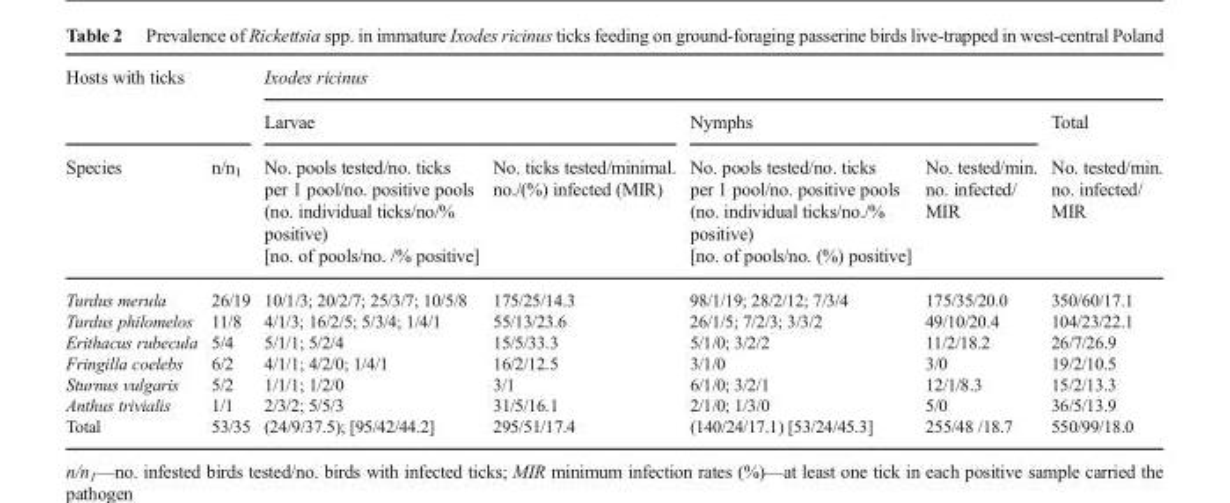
<table><thead><tr><td rowspan="2" colspan="2">Hosts with ticks</td><td colspan="5">Ixodes ricinus</td></tr><tr><td colspan="2">Larvae</td><td colspan="2">Nymphs</td><td rowspan="2">Total No. tested/min. no. infected/ MIR</td></tr><tr><td>Species</td><td>n/n<sub>1</sub></td><td>No. pools tested/no. ticks per 1 pool/no. positive pools (no. individual ticks/no/% positive) [no. of pools/no. /% positive]</td><td>No. ticks tested/minimal. no./(%) infected (MIR)</td><td>No. pools tested/no. ticks per 1 pool/no. positive pools (no. individual ticks/no./% positive) [no. of pools/no. (%) positive]</td><td>No. tested/min. no. infected/ MIR</td></tr></thead><tbody><tr><td>Turdus merula</td><td>26/19</td><td>10/1/3; 20/2/7; 25/3/7; 10/5/8</td><td>175/25/14.3</td><td>98/1/19; 28/2/12; 7/3/4</td><td>175/35/20.0</td><td>350/60/17.1</td></tr><tr><td>Turdus philomelos</td><td>11/8</td><td>4/1/3; 16/2/5; 5/3/4; 1/4/1</td><td>55/13/23.6</td><td>26/1/5; 7/2/3; 3/3/2</td><td>49/10/20.4</td><td>104/23/22.1</td></tr><tr><td>Erithacus rubecula</td><td>5/4</td><td>5/1/1; 5/2/4</td><td>15/5/33.3</td><td>5/1/0; 3/2/2</td><td>11/2/18.2</td><td>26/7/26.9</td></tr><tr><td>Fringilla coelebs</td><td>6/2</td><td>4/1/1; 4/2/0; 1/4/1</td><td>16/2/12.5</td><td>3/1/0</td><td>3/0</td><td>19/2/10.5</td></tr><tr><td>Sturnus vulgaris</td><td>5/2</td><td>1/1/1; 1/2/0</td><td>3/1</td><td>6/1/0; 3/2/1</td><td>12/1/8.3</td><td>15/2/13.3</td></tr><tr><td>Anthus trivialis</td><td>1/1</td><td>2/3/2; 5/5/3</td><td>31/5/16.1</td><td>2/1/0; 1/3/0</td><td>5/0</td><td>36/5/13.9</td></tr><tr><td>Total</td><td>53/35</td><td>(24/9/37.5); [95/42/44.2]</td><td>295/51/17.4</td><td>(140/24/17.1) [53/24/45.3]</td><td>255/48 /18.7</td><td>550/99/18.0</td></tr></tbody></table>